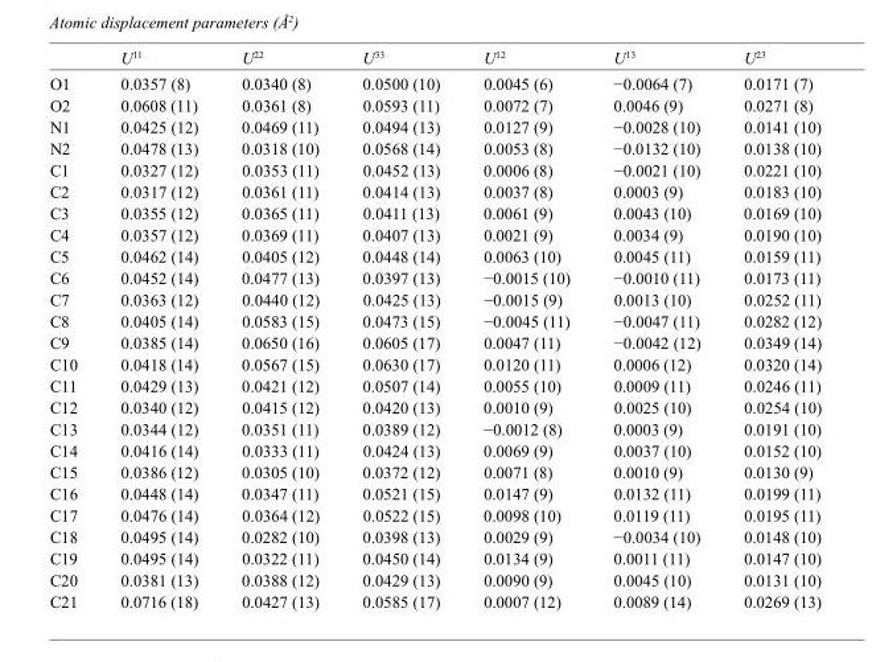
<table><thead><tr><td></td><td>U<sup>11</sup></td><td>U<sup>22</sup></td><td>U<sup>33</sup></td><td>U<sup>12</sup></td><td>U<sup>13</sup></td><td>U<sup>23</sup></td></tr></thead><tbody><tr><td>O1</td><td>0.0357 (8)</td><td>0.0340 (8)</td><td>0.0500 (10)</td><td>0.0045 (6)</td><td>−0.0064 (7)</td><td>0.0171 (7)</td></tr><tr><td>O2</td><td>0.0608 (11)</td><td>0.0361 (8)</td><td>0.0593 (11)</td><td>0.0072 (7)</td><td>0.0046 (9)</td><td>0.0271 (8)</td></tr><tr><td>N1</td><td>0.0425 (12)</td><td>0.0469 (11)</td><td>0.0494 (13)</td><td>0.0127 (9)</td><td>−0.0028 (10)</td><td>0.0141 (10)</td></tr><tr><td>N2</td><td>0.0478 (13)</td><td>0.0318 (10)</td><td>0.0568 (14)</td><td>0.0053 (8)</td><td>−0.0132 (10)</td><td>0.0138 (10)</td></tr><tr><td>C1</td><td>0.0327 (12)</td><td>0.0353 (11)</td><td>0.0452 (13)</td><td>0.0006 (8)</td><td>−0.0021 (10)</td><td>0.0221 (10)</td></tr><tr><td>C2</td><td>0.0317 (12)</td><td>0.0361 (11)</td><td>0.0414 (13)</td><td>0.0037 (8)</td><td>0.0003 (9)</td><td>0.0183 (10)</td></tr><tr><td>C3</td><td>0.0355 (12)</td><td>0.0365 (11)</td><td>0.0411 (13)</td><td>0.0061 (9)</td><td>0.0043 (10)</td><td>0.0169 (10)</td></tr><tr><td>C4</td><td>0.0357 (12)</td><td>0.0369 (11)</td><td>0.0407 (13)</td><td>0.0021 (9)</td><td>0.0034 (9)</td><td>0.0190 (10)</td></tr><tr><td>C5</td><td>0.0462 (14)</td><td>0.0405 (12)</td><td>0.0448 (14)</td><td>0.0063 (10)</td><td>0.0045 (11)</td><td>0.0159 (11)</td></tr><tr><td>C6</td><td>0.0452 (14)</td><td>0.0477 (13)</td><td>0.0397 (13)</td><td>−0.0015 (10)</td><td>−0.0010 (11)</td><td>0.0173 (11)</td></tr><tr><td>C7</td><td>0.0363 (12)</td><td>0.0440 (12)</td><td>0.0425 (13)</td><td>−0.0015 (9)</td><td>0.0013 (10)</td><td>0.0252 (11)</td></tr><tr><td>C8</td><td>0.0405 (14)</td><td>0.0583 (15)</td><td>0.0473 (15)</td><td>−0.0045 (11)</td><td>−0.0047 (11)</td><td>0.0282 (12)</td></tr><tr><td>C9</td><td>0.0385 (14)</td><td>0.0650 (16)</td><td>0.0605 (17)</td><td>0.0047 (11)</td><td>−0.0042 (12)</td><td>0.0349 (14)</td></tr><tr><td>C10</td><td>0.0418 (14)</td><td>0.0567 (15)</td><td>0.0630 (17)</td><td>0.0120 (11)</td><td>0.0006 (12)</td><td>0.0320 (14)</td></tr><tr><td>C11</td><td>0.0429 (13)</td><td>0.0421 (12)</td><td>0.0507 (14)</td><td>0.0055 (10)</td><td>0.0009 (11)</td><td>0.0246 (11)</td></tr><tr><td>C12</td><td>0.0340 (12)</td><td>0.0415 (12)</td><td>0.0420 (13)</td><td>0.0010 (9)</td><td>0.0025 (10)</td><td>0.0254 (10)</td></tr><tr><td>C13</td><td>0.0344 (12)</td><td>0.0351 (11)</td><td>0.0389 (12)</td><td>−0.0012 (8)</td><td>0.0003 (9)</td><td>0.0191 (10)</td></tr><tr><td>C14</td><td>0.0416 (14)</td><td>0.0333 (11)</td><td>0.0424 (13)</td><td>0.0069 (9)</td><td>0.0037 (10)</td><td>0.0152 (10)</td></tr><tr><td>C15</td><td>0.0386 (12)</td><td>0.0305 (10)</td><td>0.0372 (12)</td><td>0.0071 (8)</td><td>0.0010 (9)</td><td>0.0130 (9)</td></tr><tr><td>C16</td><td>0.0448 (14)</td><td>0.0347 (11)</td><td>0.0521 (15)</td><td>0.0147 (9)</td><td>0.0132 (11)</td><td>0.0199 (11)</td></tr><tr><td>C17</td><td>0.0476 (14)</td><td>0.0364 (12)</td><td>0.0522 (15)</td><td>0.0098 (10)</td><td>0.0119 (11)</td><td>0.0195 (11)</td></tr><tr><td>C18</td><td>0.0495 (14)</td><td>0.0282 (10)</td><td>0.0398 (13)</td><td>0.0029 (9)</td><td>−0.0034 (10)</td><td>0.0148 (10)</td></tr><tr><td>C19</td><td>0.0495 (14)</td><td>0.0322 (11)</td><td>0.0450 (14)</td><td>0.0134 (9)</td><td>0.0011 (11)</td><td>0.0147 (10)</td></tr><tr><td>C20</td><td>0.0381 (13)</td><td>0.0388 (12)</td><td>0.0429 (13)</td><td>0.0090 (9)</td><td>0.0045 (10)</td><td>0.0131 (10)</td></tr><tr><td>C21</td><td>0.0716 (18)</td><td>0.0427 (13)</td><td>0.0585 (17)</td><td>0.0007 (12)</td><td>0.0089 (14)</td><td>0.0269 (13)</td></tr></tbody></table>